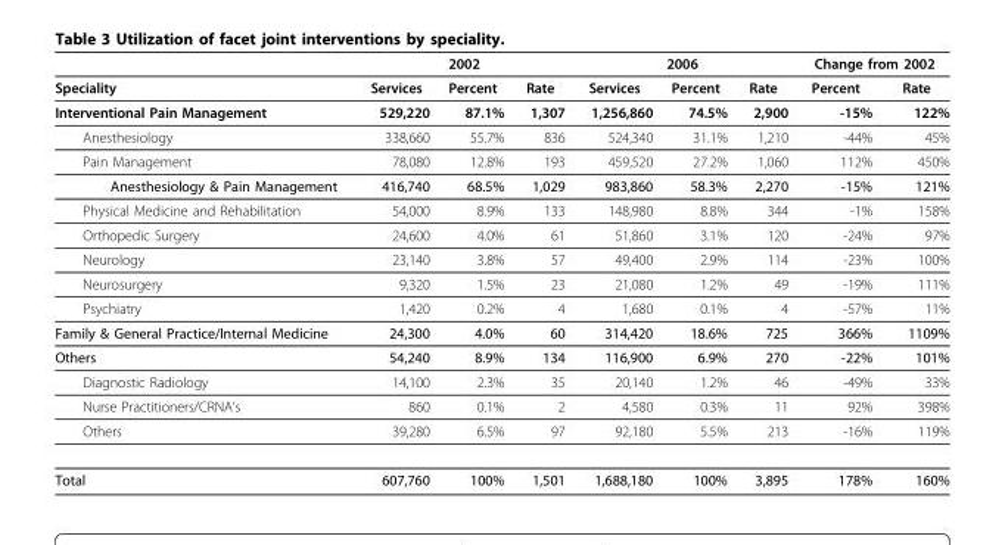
<table><thead><tr><td rowspan="2">Speciality</td><td colspan="3">2002</td><td colspan="3">2006</td><td colspan="2">Change from 2002</td></tr><tr><td>Services</td><td>Percent</td><td>Rate</td><td>Services</td><td>Percent</td><td>Rate</td><td>Percent</td><td>Rate</td></tr></thead><tbody><tr><td>Interventional Pain Management</td><td>529,220</td><td>87.1%</td><td>1,307</td><td>1,256,860</td><td>74.5%</td><td>2,900</td><td>-15%</td><td>122%</td></tr><tr><td>Anesthesiology</td><td>338,660</td><td>55.7%</td><td>836</td><td>524,340</td><td>31.1%</td><td>1,210</td><td>-44%</td><td>45%</td></tr><tr><td>Pain Management</td><td>78,080</td><td>12.8%</td><td>193</td><td>459,520</td><td>27.2%</td><td>1,060</td><td>112%</td><td>450%</td></tr><tr><td>Anesthesiology &amp; Pain Management</td><td>416,740</td><td>68.5%</td><td>1,029</td><td>983,860</td><td>58.3%</td><td>2,270</td><td>-15%</td><td>121%</td></tr><tr><td>Physical Medicine and Rehabilitation</td><td>54,000</td><td>8.9%</td><td>133</td><td>148,980</td><td>8.8%</td><td>344</td><td>-1%</td><td>158%</td></tr><tr><td>Orthopedic Surgery</td><td>24,600</td><td>4.0%</td><td>61</td><td>51,860</td><td>3.1%</td><td>120</td><td>-24%</td><td>97%</td></tr><tr><td>Neurology</td><td>23,140</td><td>3.8%</td><td>57</td><td>49,400</td><td>2.9%</td><td>114</td><td>-23%</td><td>100%</td></tr><tr><td>Neurosurgery</td><td>9,320</td><td>1.5%</td><td>23</td><td>21,080</td><td>1.2%</td><td>49</td><td>-19%</td><td>111%</td></tr><tr><td>Psychiatry</td><td>1,420</td><td>0.2%</td><td>4</td><td>1,680</td><td>0.1%</td><td>4</td><td>-57%</td><td>11%</td></tr><tr><td>Family &amp; General Practice/Internal Medicine</td><td>24,300</td><td>4.0%</td><td>60</td><td>314,420</td><td>18.6%</td><td>725</td><td>366%</td><td>1109%</td></tr><tr><td>Others</td><td>54,240</td><td>8.9%</td><td>134</td><td>116,900</td><td>6.9%</td><td>270</td><td>-22%</td><td>101%</td></tr><tr><td>Diagnostic Radiology</td><td>14,100</td><td>2.3%</td><td>35</td><td>20,140</td><td>1.2%</td><td>46</td><td>-49%</td><td>33%</td></tr><tr><td>Nurse Practitioners/CRNA’s</td><td>860</td><td>0.1%</td><td>2</td><td>4,580</td><td>0.3%</td><td>11</td><td>92%</td><td>398%</td></tr><tr><td>Others</td><td>39,280</td><td>6.5%</td><td>97</td><td>92,180</td><td>5.5%</td><td>213</td><td>-16%</td><td>119%</td></tr><tr><td>Total</td><td>607,760</td><td>100%</td><td>1,501</td><td>1,688,180</td><td>100%</td><td>3,895</td><td>178%</td><td>160%</td></tr></tbody></table>